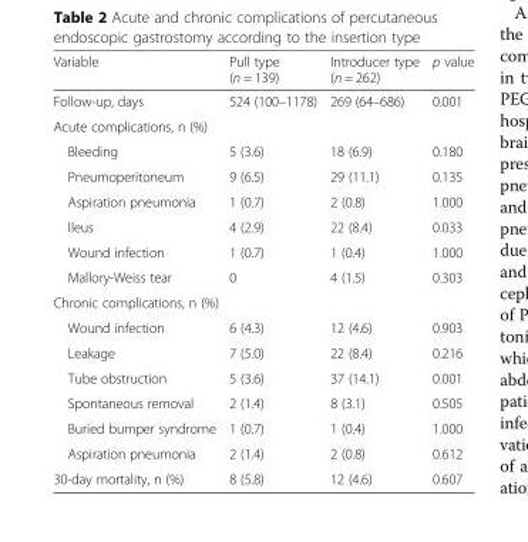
<table><thead><tr><td>Variable</td><td>Pull type (n = 139)</td><td>Introducer type (n = 262)</td><td>p value</td></tr></thead><tbody><tr><td>Follow-up, days</td><td>524 (100–1178)</td><td>269 (64–686)</td><td>0.001</td></tr><tr><td colspan="4">Acute complications, n (%)</td></tr><tr><td>Bleeding</td><td>5 (3.6)</td><td>18 (6.9)</td><td>0.180</td></tr><tr><td>Pneumoperitoneum</td><td>9 (6.5)</td><td>29 (11.1)</td><td>0.135</td></tr><tr><td>Aspiration pneumonia</td><td>1 (0.7)</td><td>2 (0.8)</td><td>1.000</td></tr><tr><td>Ileus</td><td>4 (2.9)</td><td>22 (8.4)</td><td>0.033</td></tr><tr><td>Wound infection</td><td>1 (0.7)</td><td>1 (0.4)</td><td>1.000</td></tr><tr><td>Mallory-Weiss tear</td><td>0</td><td>4 (1.5)</td><td>0.303</td></tr><tr><td colspan="4">Chronic complications, n (%)</td></tr><tr><td>Wound infection</td><td>6 (4.3)</td><td>12 (4.6)</td><td>0.903</td></tr><tr><td>Leakage</td><td>7 (5.0)</td><td>22 (8.4)</td><td>0.216</td></tr><tr><td>Tube obstruction</td><td>5 (3.6)</td><td>37 (14.1)</td><td>0.001</td></tr><tr><td>Spontaneous removal</td><td>2 (1.4)</td><td>8 (3.1)</td><td>0.505</td></tr><tr><td>Buried bumper syndrome</td><td>1 (0.7)</td><td>1 (0.4)</td><td>1.000</td></tr><tr><td>Aspiration pneumonia</td><td>2 (1.4)</td><td>2 (0.8)</td><td>0.612</td></tr><tr><td>30-day mortality, n (%)</td><td>8 (5.8)</td><td>12 (4.6)</td><td>0.607</td></tr></tbody></table>